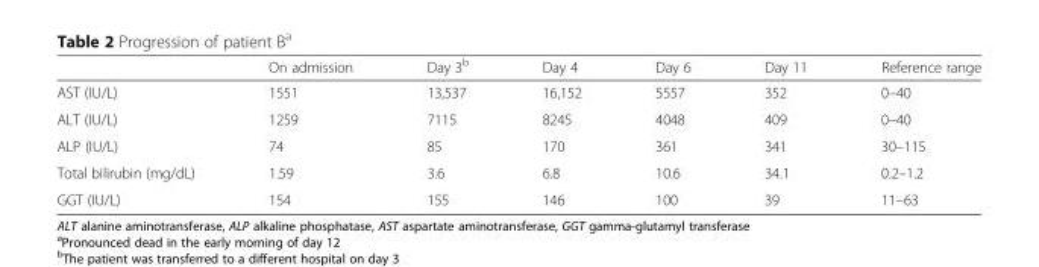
<table><thead><tr><td></td><td>On admission</td><td>Day 3<sup>b</sup></td><td>Day 4</td><td>Day 6</td><td>Day 11</td><td>Reference range</td></tr></thead><tbody><tr><td>AST (IU/L)</td><td>1551</td><td>13,537</td><td>16,152</td><td>5557</td><td>352</td><td>0–40</td></tr><tr><td>ALT (IU/L)</td><td>1259</td><td>7115</td><td>8245</td><td>4048</td><td>409</td><td>0–40</td></tr><tr><td>ALP (IU/L)</td><td>74</td><td>85</td><td>170</td><td>361</td><td>341</td><td>30–115</td></tr><tr><td>Total bilirubin (mg/dL)</td><td>1.59</td><td>3.6</td><td>6.8</td><td>10.6</td><td>34.1</td><td>0.2–1.2</td></tr><tr><td>GGT (IU/L)</td><td>154</td><td>155</td><td>146</td><td>100</td><td>39</td><td>11–63</td></tr></tbody></table>